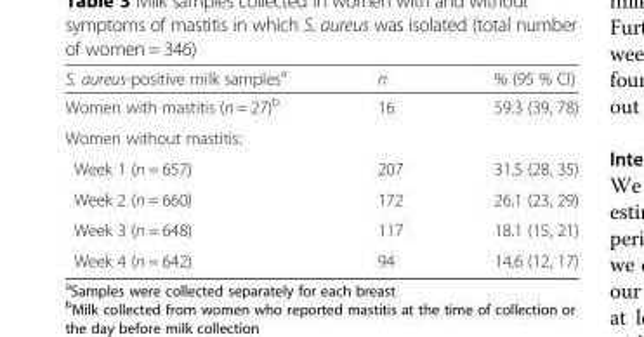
<table><thead><tr><td>S. aureus-positive milk samples<sup>a</sup></td><td>n</td><td>% (95 % CI)</td></tr></thead><tbody><tr><td>Women with mastitis (n = 27)<sup>b</sup></td><td>16</td><td>59.3 (39, 78)</td></tr><tr><td colspan="3">Women without mastitis:</td></tr><tr><td>Week 1 (n = 657)</td><td>207</td><td>31.5 (28, 35)</td></tr><tr><td>Week 2 (n = 660)</td><td>172</td><td>26.1 (23, 29)</td></tr><tr><td>Week 3 (n = 648)</td><td>117</td><td>18.1 (15, 21)</td></tr><tr><td>Week 4 (n = 642)</td><td>94</td><td>14.6 (12, 17)</td></tr></tbody></table>